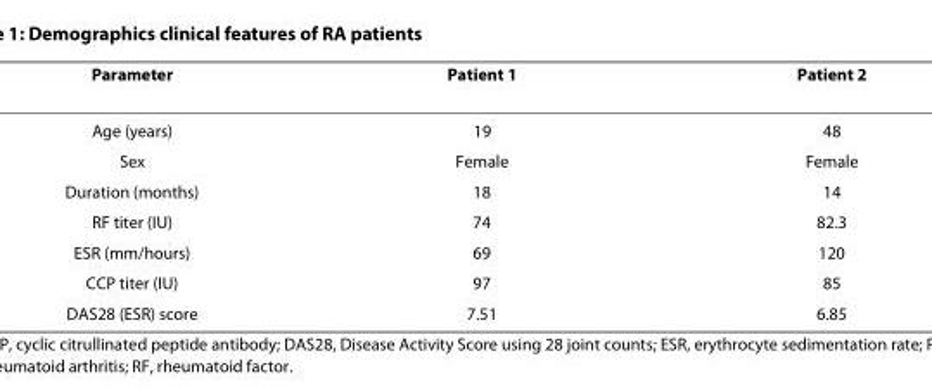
<table><thead><tr><td>Parameter</td><td>Patient 1</td><td>Patient 2</td></tr></thead><tbody><tr><td>Age (years)</td><td>19</td><td>48</td></tr><tr><td>Sex</td><td>Female</td><td>Female</td></tr><tr><td>Duration (months)</td><td>18</td><td>14</td></tr><tr><td>RF titer (IU)</td><td>74</td><td>82.3</td></tr><tr><td>ESR (mm/hours)</td><td>69</td><td>120</td></tr><tr><td>CCP titer (IU)</td><td>97</td><td>85</td></tr><tr><td>DAS28 (ESR) score</td><td>7.51</td><td>6.85</td></tr></tbody></table>